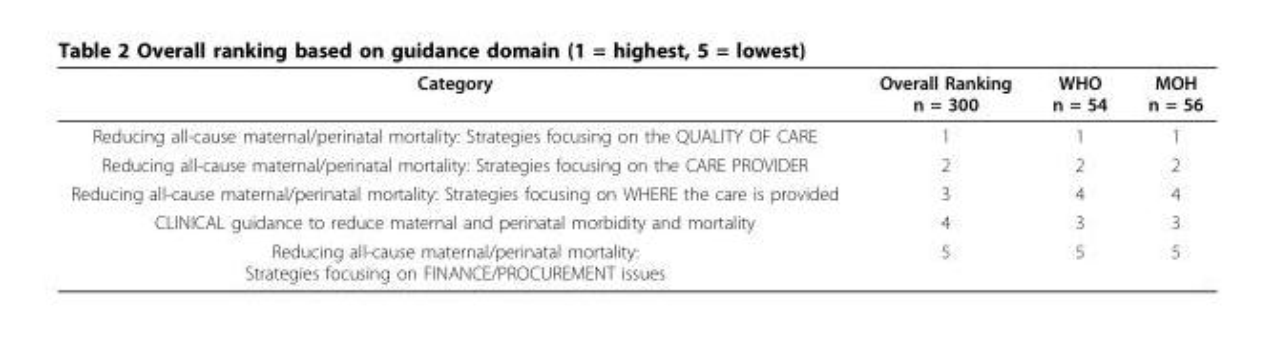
<table><thead><tr><td>Category</td><td>Overall Ranking n = 300</td><td>WHO n = 54</td><td>MOH n = 56</td></tr></thead><tbody><tr><td>Reducing all-cause maternal/perinatal mortality: Strategies focusing on the QUALITY OF CARE</td><td>1</td><td>1</td><td>1</td></tr><tr><td>Reducing all-cause maternal/perinatal mortality: Strategies focusing on the CARE PROVIDER</td><td>2</td><td>2</td><td>2</td></tr><tr><td>Reducing all-cause maternal/perinatal mortality: Strategies focusing on WHERE the care is provided</td><td>3</td><td>4</td><td>4</td></tr><tr><td>CLINICAL guidance to reduce maternal and perinatal morbidity and mortality</td><td>4</td><td>3</td><td>3</td></tr><tr><td>Reducing all-cause maternal/perinatal mortality: Strategies focusing on FINANCE/PROCUREMENT issues</td><td>5</td><td>5</td><td>5</td></tr></tbody></table>